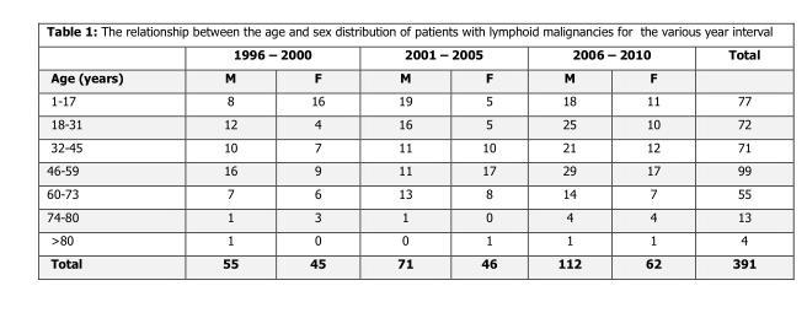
<table><thead><tr><td rowspan="2">Age (years)</td><td colspan="2">1996 – 2000</td><td colspan="2">2001 – 2005</td><td colspan="2">2006 – 2010</td><td rowspan="2">Total</td></tr><tr><td>M</td><td>F</td><td>M</td><td>F</td><td>M</td><td>F</td></tr></thead><tbody><tr><td>1-17</td><td>8</td><td>16</td><td>19</td><td>5</td><td>18</td><td>11</td><td>77</td></tr><tr><td>18-31</td><td>12</td><td>4</td><td>16</td><td>5</td><td>25</td><td>10</td><td>72</td></tr><tr><td>32-45</td><td>10</td><td>7</td><td>11</td><td>10</td><td>21</td><td>12</td><td>71</td></tr><tr><td>46-59</td><td>16</td><td>9</td><td>11</td><td>17</td><td>29</td><td>17</td><td>99</td></tr><tr><td>60-73</td><td>7</td><td>6</td><td>13</td><td>8</td><td>14</td><td>7</td><td>55</td></tr><tr><td>74-80</td><td>1</td><td>3</td><td>1</td><td>0</td><td>4</td><td>4</td><td>13</td></tr><tr><td>&gt;80</td><td>1</td><td>0</td><td>0</td><td>1</td><td>1</td><td>1</td><td>4</td></tr><tr><td>Total</td><td>55</td><td>45</td><td>71</td><td>46</td><td>112</td><td>62</td><td>391</td></tr></tbody></table>